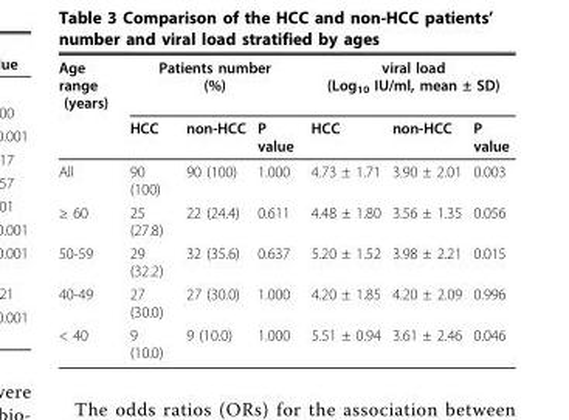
<table><tbody><tr><td rowspan="2">Age range (years)</td><td colspan="3">Patients number (%)</td><td colspan="3">viral load (Log<sub>10</sub> IU/ml, mean ± SD)</td></tr><tr><td>HCC</td><td>non-HCC</td><td>P value</td><td>HCC</td><td>non-HCC</td><td>P value</td></tr><tr><td>All</td><td>90 (100)</td><td>90 (100)</td><td>1.000</td><td>4.73 ± 1.71</td><td>3.90 ± 2.01</td><td>0.003</td></tr><tr><td>≥ 60</td><td>25 (27.8)</td><td>22 (24.4)</td><td>0.611</td><td>4.48 ± 1.80</td><td>3.56 ± 1.35</td><td>0.056</td></tr><tr><td>50-59</td><td>29 (32.2)</td><td>32 (35.6)</td><td>0.637</td><td>5.20 ± 1.52</td><td>3.98 ± 2.21</td><td>0.015</td></tr><tr><td>40-49</td><td>27 (30.0)</td><td>27 (30.0)</td><td>1.000</td><td>4.20 ± 1.85</td><td>4.20 ± 2.09</td><td>0.996</td></tr><tr><td>&lt; 40</td><td>9 (10.0)</td><td>9 (10.0)</td><td>1.000</td><td>5.51 ± 0.94</td><td>3.61 ± 2.46</td><td>0.046</td></tr></tbody></table>